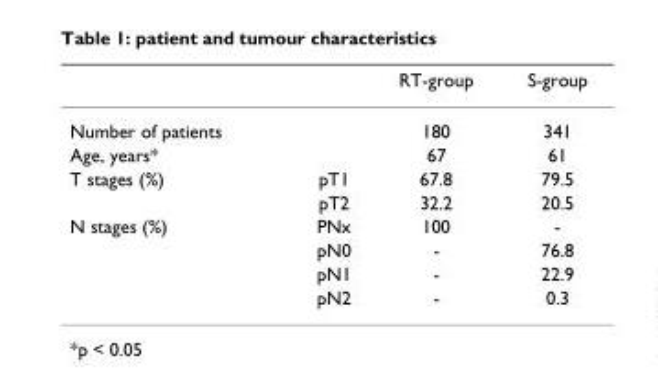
<table><thead><tr><td></td><td></td><td>RT-group</td><td>S-group</td></tr></thead><tbody><tr><td>Number of patients</td><td></td><td>180</td><td>341</td></tr><tr><td>Age, years*</td><td></td><td>67</td><td>61</td></tr><tr><td rowspan="2">T stages (%)</td><td>pT1</td><td>67.8</td><td>79.5</td></tr><tr><td>pT2</td><td>32.2</td><td>20.5</td></tr><tr><td rowspan="4">N stages (%)</td><td>PNx</td><td>100</td><td>-</td></tr><tr><td>pN0</td><td>-</td><td>76.8</td></tr><tr><td>pN1</td><td>-</td><td>22.9</td></tr><tr><td>pN2</td><td>-</td><td>0.3</td></tr></tbody></table>